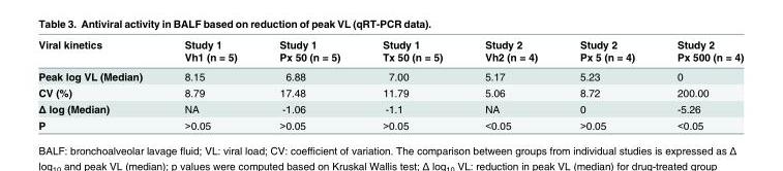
<table><thead><tr><td rowspan="2">Viral kinetics</td><td rowspan="2">Study 1 Vh1 (n = 5)</td><td rowspan="2">Study 1 Px 50 (n = 5)</td><td rowspan="2">Study 1 Tx 50 (n = 5)</td><td rowspan="2">Study 2 Vh2 (n = 4)</td><td rowspan="2">Study 2 Px 5 (n = 4)</td><td rowspan="2">Study 2 Px 500 (n = 4)</td></tr><tr></tr></thead><tbody><tr><td>Peak log VL (Median)</td><td>8.15</td><td>6.88</td><td>7.00</td><td>5.17</td><td>5.23</td><td>0</td></tr><tr><td>CV (%)</td><td>8.79</td><td>17.48</td><td>11.79</td><td>5.06</td><td>8.72</td><td>200.00</td></tr><tr><td>Δ log (Median)</td><td>NA</td><td>-1.06</td><td>-1.1</td><td>NA</td><td>0</td><td>-5.26</td></tr><tr><td>P</td><td>&gt;0.05</td><td>&gt;0.05</td><td>&gt;0.05</td><td>&lt;0.05</td><td>&gt;0.05</td><td>&lt;0.05</td></tr></tbody></table>